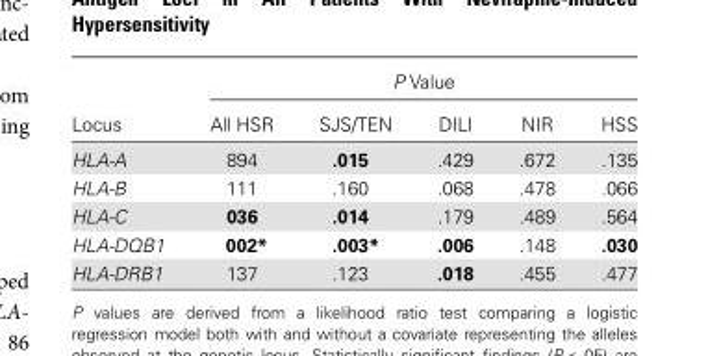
<table><thead><tr><td rowspan="2">Locus</td><td colspan="5">P Value</td></tr><tr><td>All HSR</td><td>SJS/TEN</td><td>DILI</td><td>NIR</td><td>HSS</td></tr></thead><tbody><tr><td>HLA-A</td><td>894</td><td>.015</td><td>.429</td><td>.672</td><td>.135</td></tr><tr><td>HLA-B</td><td>111</td><td>.160</td><td>.068</td><td>.478</td><td>.066</td></tr><tr><td>HLA-C</td><td>036</td><td>.014</td><td>.179</td><td>.489</td><td>.564</td></tr><tr><td>HLA-DQB1</td><td>002*</td><td>.003*</td><td>.006</td><td>.148</td><td>.030</td></tr><tr><td>HLA-DRB1</td><td>137</td><td>.123</td><td>.018</td><td>.455</td><td>.477</td></tr></tbody></table>